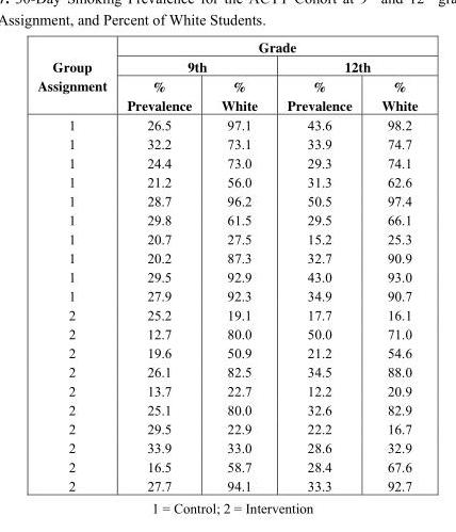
<table><thead><tr><td rowspan="3">Group Assignment</td><td colspan="4">Grade</td></tr><tr><td colspan="2">9th</td><td colspan="2">12th</td></tr><tr><td>% Prevalence</td><td>% White</td><td>% Prevalence</td><td>% White</td></tr></thead><tbody><tr><td>1</td><td>26.5</td><td>97.1</td><td>43.6</td><td>98.2</td></tr><tr><td>1</td><td>32.2</td><td>73.1</td><td>33.9</td><td>74.7</td></tr><tr><td>1</td><td>24.4</td><td>73.0</td><td>29.3</td><td>74.1</td></tr><tr><td>1</td><td>21.2</td><td>56.0</td><td>31.3</td><td>62.6</td></tr><tr><td>1</td><td>28.7</td><td>96.2</td><td>50.5</td><td>97.4</td></tr><tr><td>1</td><td>29.8</td><td>61.5</td><td>29.5</td><td>66.1</td></tr><tr><td>1</td><td>20.7</td><td>27.5</td><td>15.2</td><td>25.3</td></tr><tr><td>1</td><td>20.2</td><td>87.3</td><td>32.7</td><td>90.9</td></tr><tr><td>1</td><td>29.5</td><td>92.9</td><td>43.0</td><td>93.0</td></tr><tr><td>1</td><td>27.9</td><td>92.3</td><td>34.9</td><td>90.7</td></tr><tr><td>2</td><td>25.2</td><td>19.1</td><td>17.7</td><td>16.1</td></tr><tr><td>2</td><td>12.7</td><td>80.0</td><td>50.0</td><td>71.0</td></tr><tr><td>2</td><td>19.6</td><td>50.9</td><td>21.2</td><td>54.6</td></tr><tr><td>2</td><td>26.1</td><td>82.5</td><td>34.5</td><td>88.0</td></tr><tr><td>2</td><td>13.7</td><td>22.7</td><td>12.2</td><td>20.9</td></tr><tr><td>2</td><td>25.1</td><td>80.0</td><td>32.6</td><td>82.9</td></tr><tr><td>2</td><td>29.5</td><td>22.9</td><td>22.2</td><td>16.7</td></tr><tr><td>2</td><td>33.9</td><td>33.0</td><td>28.6</td><td>32.9</td></tr><tr><td>2</td><td>16.5</td><td>58.7</td><td>28.4</td><td>67.6</td></tr><tr><td>2</td><td>27.7</td><td>94.1</td><td>33.3</td><td>92.7</td></tr></tbody></table>